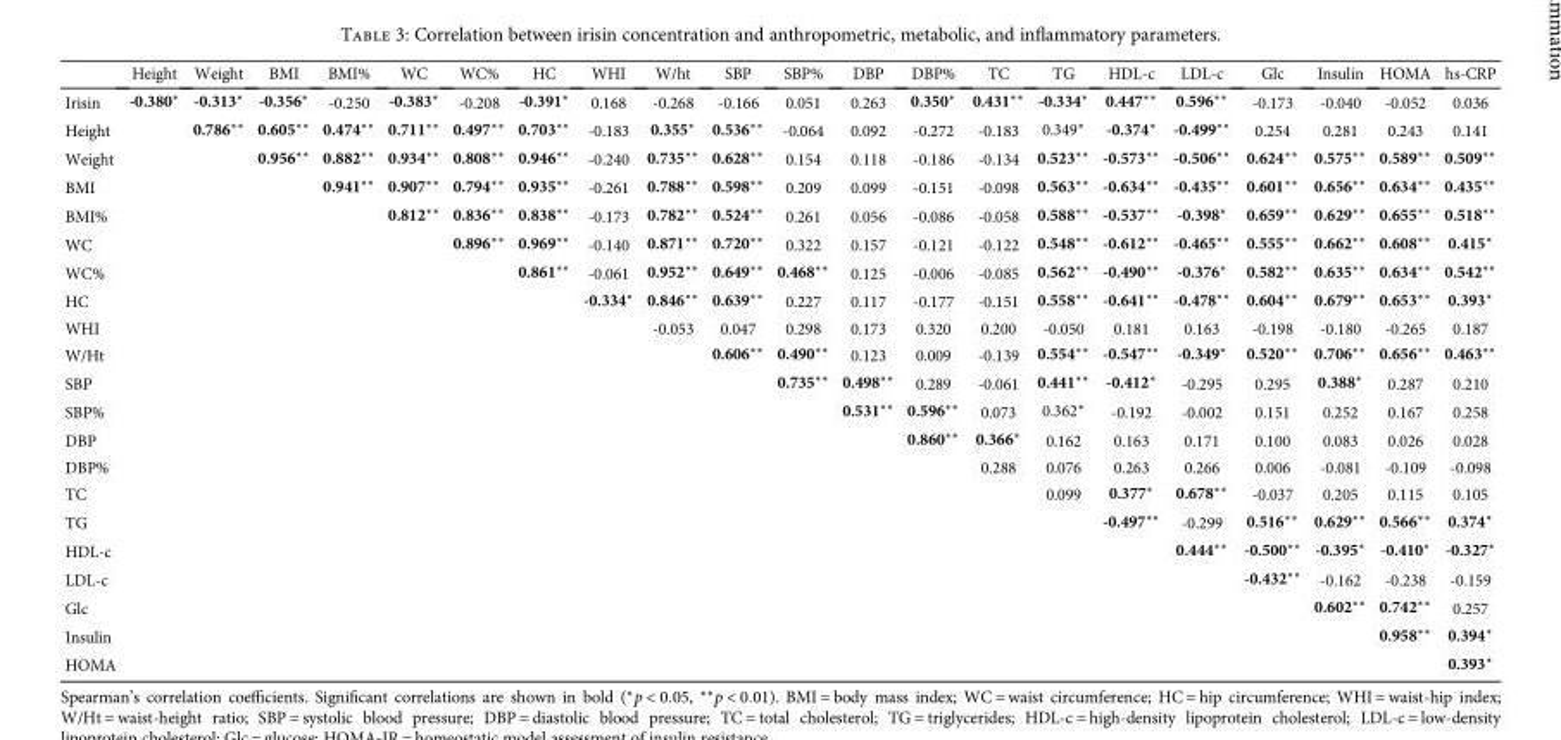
<table><thead><tr><td></td><td>Height</td><td>Weight</td><td>BMI</td><td>BMI%</td><td>WC</td><td>WC%</td><td>HC</td><td>WHI</td><td>W/ht</td><td>SBP</td><td>SBP%</td><td>DBP</td><td>DBP%</td><td>TC</td><td>TG</td><td>HDL-c</td><td>LDL-c</td><td>Glc</td><td>Insulin</td><td>HOMA</td><td>hs-CRP</td></tr></thead><tbody><tr><td>Irisin</td><td>-0.380∗</td><td>-0.313∗</td><td>-0.356∗</td><td>-0.250</td><td>-0.383∗</td><td>-0.208</td><td>-0.391∗</td><td>0.168</td><td>-0.268</td><td>-0.166</td><td>0.051</td><td>0.263</td><td>0.350∗</td><td>0.431∗∗</td><td>-0.334∗</td><td>0.447∗∗</td><td>0.596∗∗</td><td>-0.173</td><td>-0.040</td><td>-0.052</td><td>0.036</td></tr><tr><td>Height</td><td></td><td>0.786∗∗</td><td>0.605∗∗</td><td>0.474∗∗</td><td>0.711∗∗</td><td>0.497∗∗</td><td>0.703∗∗</td><td>-0.183</td><td>0.355∗</td><td>0.536∗∗</td><td>-0.064</td><td>0.092</td><td>-0.272</td><td>-0.183</td><td>0.349∗</td><td>-0.374∗</td><td>-0.499∗∗</td><td>0.254</td><td>0.281</td><td>0.243</td><td>0.141</td></tr><tr><td>Weight</td><td></td><td></td><td>0.956∗∗</td><td>0.882∗∗</td><td>0.934∗∗</td><td>0.808∗∗</td><td>0.946∗∗</td><td>-0.240</td><td>0.735∗∗</td><td>0.628∗∗</td><td>0.154</td><td>0.118</td><td>-0.186</td><td>-0.134</td><td>0.523∗∗</td><td>-0.573∗∗</td><td>-0.506∗∗</td><td>0.624∗∗</td><td>0.575∗∗</td><td>0.589∗∗</td><td>0.509∗∗</td></tr><tr><td>BMI</td><td></td><td></td><td></td><td>0.941∗∗</td><td>0.907∗∗</td><td>0.794∗∗</td><td>0.935∗∗</td><td>-0.261</td><td>0.788∗∗</td><td>0.598∗∗</td><td>0.209</td><td>0.099</td><td>-0.151</td><td>-0.098</td><td>0.563∗∗</td><td>-0.634∗∗</td><td>-0.435∗∗</td><td>0.601∗∗</td><td>0.656∗∗</td><td>0.634∗∗</td><td>0.435∗∗</td></tr><tr><td>BMI%</td><td></td><td></td><td></td><td></td><td>0.812∗∗</td><td>0.836∗∗</td><td>0.838∗∗</td><td>-0.173</td><td>0.782∗∗</td><td>0.524∗∗</td><td>0.261</td><td>0.056</td><td>-0.086</td><td>-0.058</td><td>0.588∗∗</td><td>-0.537∗∗</td><td>-0.398∗</td><td>0.659∗∗</td><td>0.629∗∗</td><td>0.655∗∗</td><td>0.518∗∗</td></tr><tr><td>WC</td><td></td><td></td><td></td><td></td><td></td><td>0.896∗∗</td><td>0.969∗∗</td><td>-0.140</td><td>0.871∗∗</td><td>0.720∗∗</td><td>0.322</td><td>0.157</td><td>-0.121</td><td>-0.122</td><td>0.548∗∗</td><td>-0.612∗∗</td><td>-0.465∗∗</td><td>0.555∗∗</td><td>0.662∗∗</td><td>0.608∗∗</td><td>0.415∗</td></tr><tr><td>WC%</td><td></td><td></td><td></td><td></td><td></td><td></td><td>0.861∗∗</td><td>-0.061</td><td>0.952∗∗</td><td>0.649∗∗</td><td>0.468∗∗</td><td>0.125</td><td>-0.006</td><td>-0.085</td><td>0.562∗∗</td><td>-0.490∗∗</td><td>-0.376∗</td><td>0.582∗∗</td><td>0.635∗∗</td><td>0.634∗∗</td><td>0.542∗∗</td></tr><tr><td>HC</td><td></td><td></td><td></td><td></td><td></td><td></td><td></td><td>-0.334∗</td><td>0.846∗∗</td><td>0.639∗∗</td><td>0.227</td><td>0.117</td><td>-0.177</td><td>-0.151</td><td>0.558∗∗</td><td>-0.641∗∗</td><td>-0.478∗∗</td><td>0.604∗∗</td><td>0.679∗∗</td><td>0.653∗∗</td><td>0.393∗</td></tr><tr><td>WHI</td><td></td><td></td><td></td><td></td><td></td><td></td><td></td><td></td><td>-0.053</td><td>0.047</td><td>0.298</td><td>0.173</td><td>0.320</td><td>0.200</td><td>-0.050</td><td>0.181</td><td>0.163</td><td>-0.198</td><td>-0.180</td><td>-0.265</td><td>0.187</td></tr><tr><td>W/Ht</td><td></td><td></td><td></td><td></td><td></td><td></td><td></td><td></td><td></td><td>0.606∗∗</td><td>0.490∗∗</td><td>0.123</td><td>0.009</td><td>-0.139</td><td>0.554∗∗</td><td>-0.547∗∗</td><td>-0.349∗</td><td>0.520∗∗</td><td>0.706∗∗</td><td>0.656∗∗</td><td>0.463∗∗</td></tr><tr><td>SBP</td><td></td><td></td><td></td><td></td><td></td><td></td><td></td><td></td><td></td><td></td><td>0.735∗∗</td><td>0.498∗∗</td><td>0.289</td><td>-0.061</td><td>0.441∗∗</td><td>-0.412∗</td><td>-0.295</td><td>0.295</td><td>0.388∗</td><td>0.287</td><td>0.210</td></tr><tr><td>SBP%</td><td></td><td></td><td></td><td></td><td></td><td></td><td></td><td></td><td></td><td></td><td></td><td>0.531∗∗</td><td>0.596∗∗</td><td>0.073</td><td>0.362∗</td><td>-0.192</td><td>-0.002</td><td>0.151</td><td>0.252</td><td>0.167</td><td>0.258</td></tr><tr><td>DBP</td><td></td><td></td><td></td><td></td><td></td><td></td><td></td><td></td><td></td><td></td><td></td><td></td><td>0.860∗∗</td><td>0.366∗</td><td>0.162</td><td>0.163</td><td>0.171</td><td>0.100</td><td>0.083</td><td>0.026</td><td>0.028</td></tr><tr><td>DBP%</td><td></td><td></td><td></td><td></td><td></td><td></td><td></td><td></td><td></td><td></td><td></td><td></td><td></td><td>0.288</td><td>0.076</td><td>0.263</td><td>0.266</td><td>0.006</td><td>-0.081</td><td>-0.109</td><td>-0.098</td></tr><tr><td>TC</td><td></td><td></td><td></td><td></td><td></td><td></td><td></td><td></td><td></td><td></td><td></td><td></td><td></td><td></td><td>0.099</td><td>0.377∗</td><td>0.678∗∗</td><td>-0.037</td><td>0.205</td><td>0.115</td><td>0.105</td></tr><tr><td>TG</td><td></td><td></td><td></td><td></td><td></td><td></td><td></td><td></td><td></td><td></td><td></td><td></td><td></td><td></td><td></td><td>-0.497∗∗</td><td>-0.299</td><td>0.516∗∗</td><td>0.629∗∗</td><td>0.566∗∗</td><td>0.374∗</td></tr><tr><td>HDL-c</td><td></td><td></td><td></td><td></td><td></td><td></td><td></td><td></td><td></td><td></td><td></td><td></td><td></td><td></td><td></td><td></td><td>0.444∗∗</td><td>-0.500∗∗</td><td>-0.395∗</td><td>-0.410∗</td><td>-0.327∗</td></tr><tr><td>LDL-c</td><td></td><td></td><td></td><td></td><td></td><td></td><td></td><td></td><td></td><td></td><td></td><td></td><td></td><td></td><td></td><td></td><td></td><td>-0.432∗∗</td><td>-0.162</td><td>-0.238</td><td>-0.159</td></tr><tr><td>Glc</td><td></td><td></td><td></td><td></td><td></td><td></td><td></td><td></td><td></td><td></td><td></td><td></td><td></td><td></td><td></td><td></td><td></td><td></td><td>0.602∗∗</td><td>0.742∗∗</td><td>0.257</td></tr><tr><td>Insulin</td><td></td><td></td><td></td><td></td><td></td><td></td><td></td><td></td><td></td><td></td><td></td><td></td><td></td><td></td><td></td><td></td><td></td><td></td><td></td><td>0.958∗∗</td><td>0.394∗</td></tr><tr><td>HOMA</td><td></td><td></td><td></td><td></td><td></td><td></td><td></td><td></td><td></td><td></td><td></td><td></td><td></td><td></td><td></td><td></td><td></td><td></td><td></td><td></td><td>0.393∗</td></tr></tbody></table>